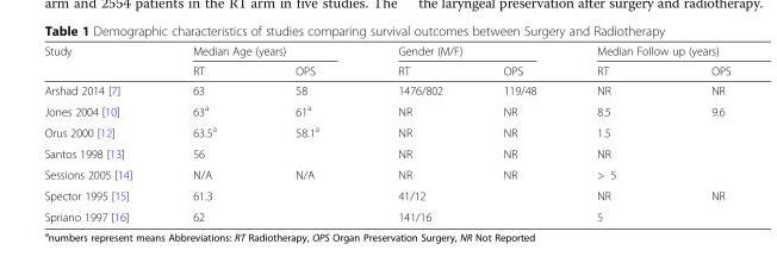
<table><thead><tr><td rowspan="2">Study</td><td colspan="2">Median Age (years)</td><td colspan="2">Gender (M/F)</td><td colspan="2">Median Follow up (years)</td></tr><tr><td>RT</td><td>OPS</td><td>RT</td><td>OPS</td><td>RT</td><td>OPS</td></tr></thead><tbody><tr><td>Arshad 2014 [7]</td><td>63</td><td>58</td><td>1476/802</td><td>119/48</td><td>NR</td><td>NR</td></tr><tr><td>Jones 2004 [10]</td><td>63<sup>a</sup></td><td>61<sup>a</sup></td><td>NR</td><td>NR</td><td>8.5</td><td>9.6</td></tr><tr><td>Orus 2000 [12]</td><td>63.5<sup>a</sup></td><td>58.1<sup>a</sup></td><td>NR</td><td>NR</td><td colspan="2">1.5</td></tr><tr><td>Santos 1998 [13]</td><td colspan="2">56</td><td>NR</td><td>NR</td><td>NR</td><td></td></tr><tr><td>Sessions 2005 [14]</td><td>N/A</td><td>N/A</td><td>NR</td><td>NR</td><td colspan="2">&gt; 5</td></tr><tr><td>Spector 1995 [15]</td><td colspan="2">61.3</td><td colspan="2">41/12</td><td>NR</td><td>NR</td></tr><tr><td>Spriano 1997 [16]</td><td colspan="2">62</td><td colspan="2">141/16</td><td colspan="2">5</td></tr></tbody></table>